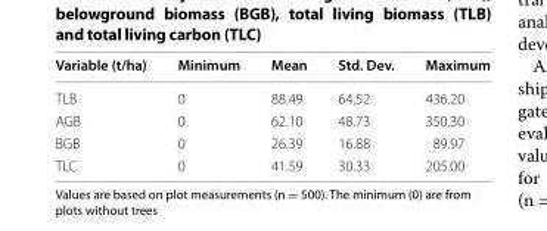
<table><thead><tr><td>Variable (t/ha)</td><td>Minimum</td><td>Mean</td><td>Std. Dev.</td><td>Maximum</td></tr></thead><tbody><tr><td>TLB</td><td>0</td><td>88.49</td><td>64.52</td><td>436.20</td></tr><tr><td>AGB</td><td>0</td><td>62.10</td><td>48.73</td><td>350.30</td></tr><tr><td>BGB</td><td>0</td><td>26.39</td><td>16.88</td><td>89.97</td></tr><tr><td>TLC</td><td>0</td><td>41.59</td><td>30.33</td><td>205.00</td></tr></tbody></table>